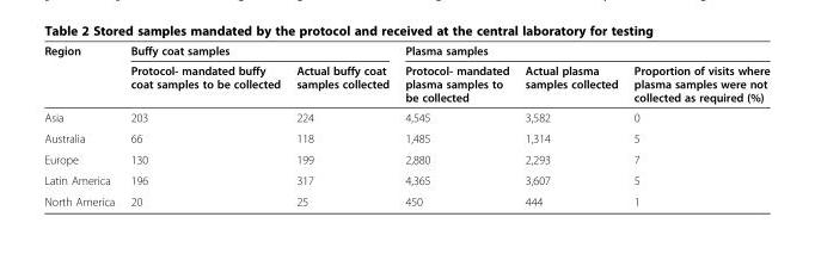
<table><thead><tr><td rowspan="2">Region</td><td colspan="2">Buffy coat samples</td><td colspan="3">Plasma samples</td></tr><tr><td>Protocol- mandated buffy coat samples to be collected</td><td>Actual buffy coat samples collected</td><td>Protocol- mandated plasma samples to be collected</td><td>Actual plasma samples collected</td><td>Proportion of visits where plasma samples were not collected as required (%)</td></tr></thead><tbody><tr><td>Asia</td><td>203</td><td>224</td><td>4,545</td><td>3,582</td><td>0</td></tr><tr><td>Australia</td><td>66</td><td>118</td><td>1,485</td><td>1,314</td><td>5</td></tr><tr><td>Europe</td><td>130</td><td>199</td><td>2,880</td><td>2,293</td><td>7</td></tr><tr><td>Latin America</td><td>196</td><td>317</td><td>4,365</td><td>3,607</td><td>5</td></tr><tr><td>North America</td><td>20</td><td>25</td><td>450</td><td>444</td><td>1</td></tr></tbody></table>